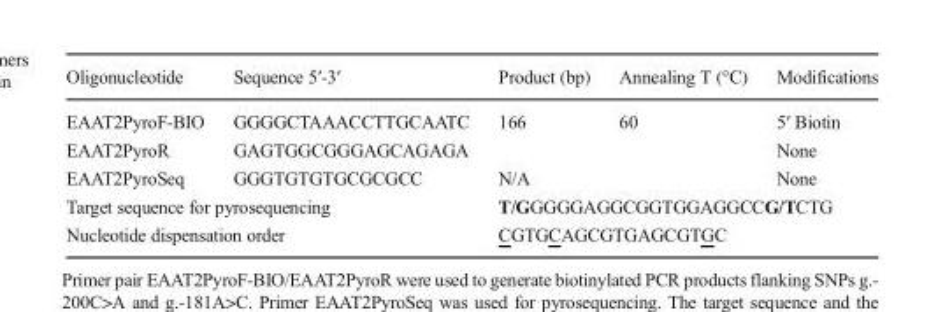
<table><thead><tr><td>Oligonucleotide</td><td>Sequence 5′-3′</td><td>Product (bp)</td><td>Annealing T (°C)</td><td>Modifications</td></tr></thead><tbody><tr><td>EAAT2PyroF-BIO EAAT2PyroR</td><td>GGGGCTAAACCTTGCAATC GAGTGGCGGGAGCAGAGA</td><td>166</td><td>60</td><td>5′ Biotin None</td></tr><tr><td>EAAT2PyroSeq</td><td>GGGTGTGTGCGCGCC</td><td colspan="2">N/A</td><td>None</td></tr><tr><td colspan="2">Target sequence for pyrosequencing</td><td colspan="3">T/GGGGGAGGCGGTGGAGGCCG/TCTG</td></tr><tr><td colspan="2">Nucleotide dispensation order</td><td colspan="3">CGTGCAGCGTGAGCGTGC</td></tr></tbody></table>